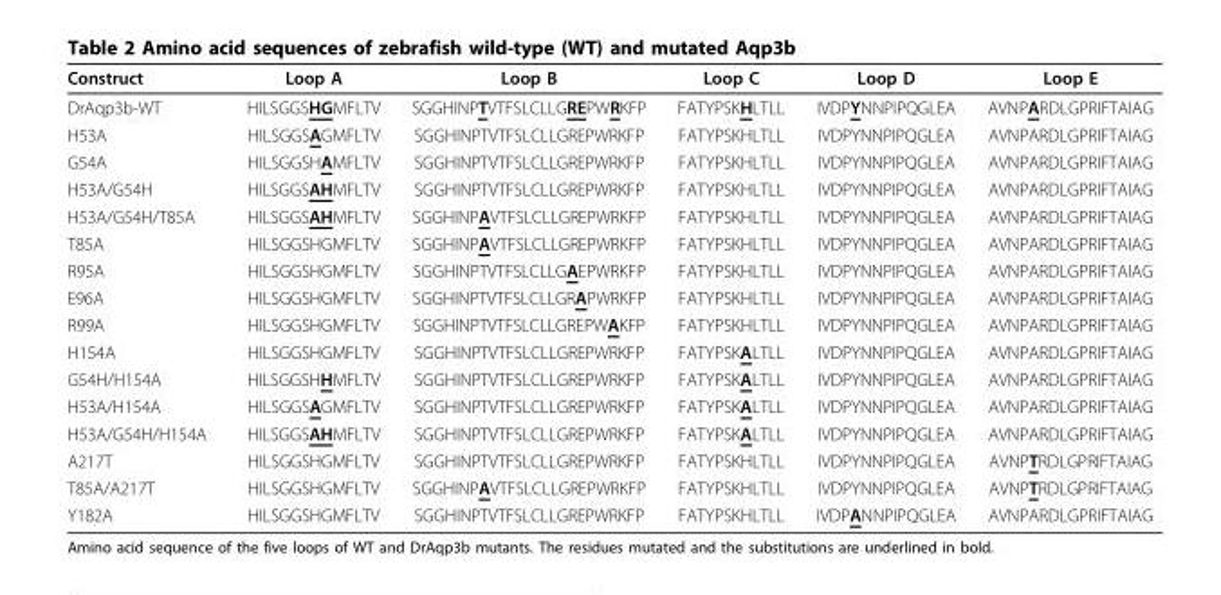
<table><thead><tr><td>Construct</td><td>Loop A</td><td>Loop B</td><td>Loop C</td><td>Loop D</td><td>Loop E</td></tr></thead><tbody><tr><td>DrAqp3b-WT</td><td>HILSGGSHGMFLTV</td><td>SGGHINPTVTFSLCLLGREPWRKFP</td><td>FATYPSKHLTLL</td><td>IVDPYNNPIPQGLEA</td><td>AVNPARDLGPRIFTAIAG</td></tr><tr><td>H53A</td><td>HILSGGSAGMFLTV</td><td>SGGHINPTVTFSLCLLGREPWRKFP</td><td>FATYPSKHLTLL</td><td>IVDPYNNPIPQGLEA</td><td>AVNPARDLGPRIFTAIAG</td></tr><tr><td>G54A</td><td>HILSGGSHAMFLTV</td><td>SGGHINPTVTFSLCLLGREPWRKFP</td><td>FATYPSKHLTLL</td><td>IVDPYNNPIPQGLEA</td><td>AVNPARDLGPRIFTAIAG</td></tr><tr><td>H53A/G54H</td><td>HILSGGSAHMFLTV</td><td>SGGHINPTVTFSLCLLGREPWRKFP</td><td>FATYPSKHLTLL</td><td>IVDPYNNPIPQGLEA</td><td>AVNPARDLGPRIFTAIAG</td></tr><tr><td>H53A/G54H/T85A</td><td>HILSGGSAHMFLTV</td><td>SGGHINPAVTFSLCLLGREPWRKFP</td><td>FATYPSKHLTLL</td><td>IVDPYNNPIPQGLEA</td><td>AVNPARDLGPRIFTAIAG</td></tr><tr><td>T85A</td><td>HILSGGSHGMFLTV</td><td>SGGHINPAVTFSLCLLGREPWRKFP</td><td>FATYPSKHLTLL</td><td>IVDPYNNPIPQGLEA</td><td>AVNPARDLGPRIFTAIAG</td></tr><tr><td>R95A</td><td>HILSGGSHGMFLTV</td><td>SGGHINPTVTFSLCLLGAEPWRKFP</td><td>FATYPSKHLTLL</td><td>IVDPYNNPIPQGLEA</td><td>AVNPARDLGPRIFTAIAG</td></tr><tr><td>E96A</td><td>HILSGGSHGMFLTV</td><td>SGGHINPTVTFSLCLLGRAPWRKFP</td><td>FATYPSKHLTLL</td><td>IVDPYNNPIPQGLEA</td><td>AVNPARDLGPRIFTAIAG</td></tr><tr><td>R99A</td><td>HILSGGSHGMFLTV</td><td>SGGHINPTVTFSLCLLGREPWAKFP</td><td>FATYPSKHLTLL</td><td>IVDPYNNPIPQGLEA</td><td>AVNPARDLGPRIFTAIAG</td></tr><tr><td>H154A</td><td>HILSGGSHGMFLTV</td><td>SGGHINPTVTFSLCLLGREPWRKFP</td><td>FATYPSKALTLL</td><td>IVDPYNNPIPQGLEA</td><td>AVNPARDLGPRIFTAIAG</td></tr><tr><td>G54H/H154A</td><td>HILSGGSHHMFLTV</td><td>SGGHINPTVTFSLCLLGREPWRKFP</td><td>FATYPSKALTLL</td><td>IVDPYNNPIPQGLEA</td><td>AVNPARDLGPRIFTAIAG</td></tr><tr><td>H53A/H154A</td><td>HILSGGSAGMFLTV</td><td>SGGHINPTVTFSLCLLGREPWRKFP</td><td>FATYPSKALTLL</td><td>IVDPYNNPIPQGLEA</td><td>AVNPARDLGPRIFTAIAG</td></tr><tr><td>H53A/G54H/H154A</td><td>HILSGGSAHMFLTV</td><td>SGGHINPTVTFSLCLLGREPWRKFP</td><td>FATYPSKALTLL</td><td>IVDPYNNPIPQGLEA</td><td>AVNPARDLGPRIFTAIAG</td></tr><tr><td>A217T</td><td>HILSGGSHGMFLTV</td><td>SGGHINPTVTFSLCLLGREPWRKFP</td><td>FATYPSKHLTLL</td><td>IVDPYNNPIPQGLEA</td><td>AVNPTRDLGPRIFTAIAG</td></tr><tr><td>T85A/A217T</td><td>HILSGGSHGMFLTV</td><td>SGGHINPAVTFSLCLLGREPWRKFP</td><td>FATYPSKHLTLL</td><td>IVDPYNNPIPQGLEA</td><td>AVNPTRDLGPRIFTAIAG</td></tr><tr><td>Y182A</td><td>HILSGGSHGMFLTV</td><td>SGGHINPTVTFSLCLLGREPWRKFP</td><td>FATYPSKHLTLL</td><td>IVDPANNPIPQGLEA</td><td>AVNPARDLGPRIFTAIAG</td></tr></tbody></table>